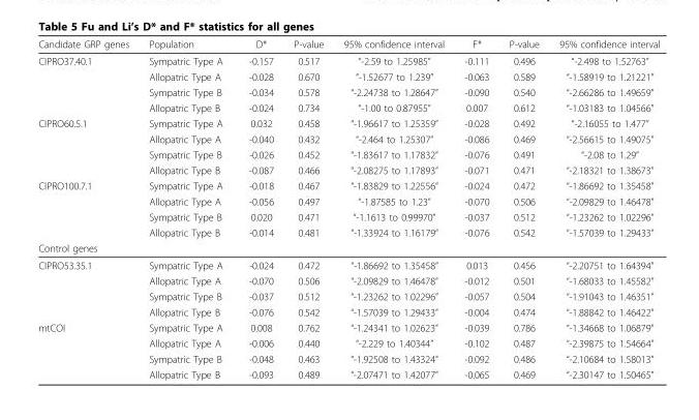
<table><thead><tr><td>Candidate GRP genes</td><td>Population</td><td>D*</td><td>P-value</td><td>95% confidence interval</td><td>F*</td><td>P-value</td><td>95% confidence interval</td></tr></thead><tbody><tr><td rowspan="4">CIPRO37.40.1</td><td>Sympatric Type A</td><td>-0.157</td><td>0.517</td><td>“-2.59 to 1.25985”</td><td>-0.111</td><td>0.496</td><td>“-2.498 to 1.52763”</td></tr><tr><td>Allopatric Type A</td><td>-0.028</td><td>0.670</td><td>“-1.52677 to 1.239”</td><td>-0.063</td><td>0.589</td><td>“-1.58919 to 1.21221”</td></tr><tr><td>Sympatric Type B</td><td>-0.034</td><td>0.578</td><td>“-2.24738 to 1.28647”</td><td>-0.090</td><td>0.540</td><td>“-2.66286 to 1.49659”</td></tr><tr><td>Allopatric Type B</td><td>-0.024</td><td>0.734</td><td>“-1.00 to 0.87955”</td><td>0.007</td><td>0.612</td><td>“-1.03183 to 1.04566”</td></tr><tr><td rowspan="4">CIPRO60.5.1</td><td>Sympatric Type A</td><td>0.032</td><td>0.458</td><td>“-1.96617 to 1.25359”</td><td>-0.028</td><td>0.492</td><td>“-2.16055 to 1.477”</td></tr><tr><td>Allopatric Type A</td><td>-0.040</td><td>0.432</td><td>“-2.464 to 1.25307”</td><td>-0.086</td><td>0.469</td><td>“-2.56615 to 1.49075”</td></tr><tr><td>Sympatric Type B</td><td>-0.026</td><td>0.452</td><td>“-1.83617 to 1.17832”</td><td>-0.076</td><td>0.491</td><td>“-2.08 to 1.29”</td></tr><tr><td>Allopatric Type B</td><td>-0.087</td><td>0.466</td><td>“-2.08275 to 1.17893”</td><td>-0.071</td><td>0.471</td><td>“-2.18321 to 1.38673”</td></tr><tr><td rowspan="4">CIPRO100.7.1</td><td>Sympatric Type A</td><td>-0.018</td><td>0.467</td><td>“-1.83829 to 1.22556”</td><td>-0.024</td><td>0.472</td><td>“-1.86692 to 1.35458”</td></tr><tr><td>Allopatric Type A</td><td>-0.056</td><td>0.497</td><td>“-1.87585 to 1.23”</td><td>-0.070</td><td>0.506</td><td>“-2.09829 to 1.46478”</td></tr><tr><td>Sympatric Type B</td><td>0.020</td><td>0.471</td><td>“-1.1613 to 0.99970”</td><td>-0.037</td><td>0.512</td><td>“-1.23262 to 1.02296”</td></tr><tr><td>Allopatric Type B</td><td>-0.014</td><td>0.481</td><td>“-1.33924 to 1.16179”</td><td>-0.076</td><td>0.542</td><td>“-1.57039 to 1.29433”</td></tr><tr><td colspan="8">Control genes</td></tr><tr><td rowspan="4">CIPRO53.35.1</td><td>Sympatric Type A</td><td>-0.024</td><td>0.472</td><td>“-1.86692 to 1.35458”</td><td>0.013</td><td>0.456</td><td>“-2.20751 to 1.64394”</td></tr><tr><td>Allopatric Type A</td><td>-0.070</td><td>0.506</td><td>“-2.09829 to 1.46478”</td><td>-0.012</td><td>0.501</td><td>“-1.68033 to 1.45582”</td></tr><tr><td>Sympatric Type B</td><td>-0.037</td><td>0.512</td><td>“-1.23262 to 1.02296”</td><td>-0.057</td><td>0.504</td><td>“-1.91043 to 1.46351”</td></tr><tr><td>Allopatric Type B</td><td>-0.076</td><td>0.542</td><td>“-1.57039 to 1.29433”</td><td>-0.004</td><td>0.474</td><td>“-1.88842 to 1.46422”</td></tr><tr><td rowspan="4">mtCOI</td><td>Sympatric Type A</td><td>0.008</td><td>0.762</td><td>“-1.24341 to 1.02623”</td><td>-0.039</td><td>0.786</td><td>“-1.34668 to 1.06879”</td></tr><tr><td>Allopatric Type A</td><td>-0.006</td><td>0.440</td><td>“-2.229 to 1.40344”</td><td>-0.102</td><td>0.487</td><td>“-2.39875 to 1.54664”</td></tr><tr><td>Sympatric Type B</td><td>-0.048</td><td>0.463</td><td>“-1.92508 to 1.43324”</td><td>-0.092</td><td>0.486</td><td>“-2.10684 to 1.58013”</td></tr><tr><td>Allopatric Type B</td><td>-0.093</td><td>0.489</td><td>“-2.07471 to 1.42077”</td><td>-0.065</td><td>0.469</td><td>“-2.30147 to 1.50465”</td></tr></tbody></table>